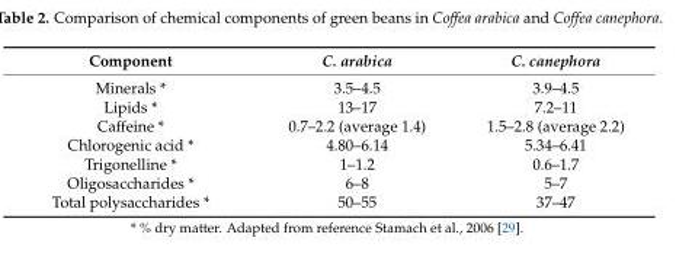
<table><thead><tr><td>Component</td><td>C. arabica</td><td>C. canephora</td></tr></thead><tbody><tr><td>Minerals *</td><td>3.5–4.5</td><td>3.9–4.5</td></tr><tr><td>Lipids *</td><td>13–17</td><td>7.2–11</td></tr><tr><td>Caffeine *</td><td>0.7–2.2 (average 1.4)</td><td>1.5–2.8 (average 2.2)</td></tr><tr><td>Chlorogenic acid *</td><td>4.80–6.14</td><td>5.34–6.41</td></tr><tr><td>Trigonelline *</td><td>1–1.2</td><td>0.6–1.7</td></tr><tr><td>Oligosaccharides *</td><td>6–8</td><td>5–7</td></tr><tr><td>Total polysaccharides *</td><td>50–55</td><td>37–47</td></tr></tbody></table>